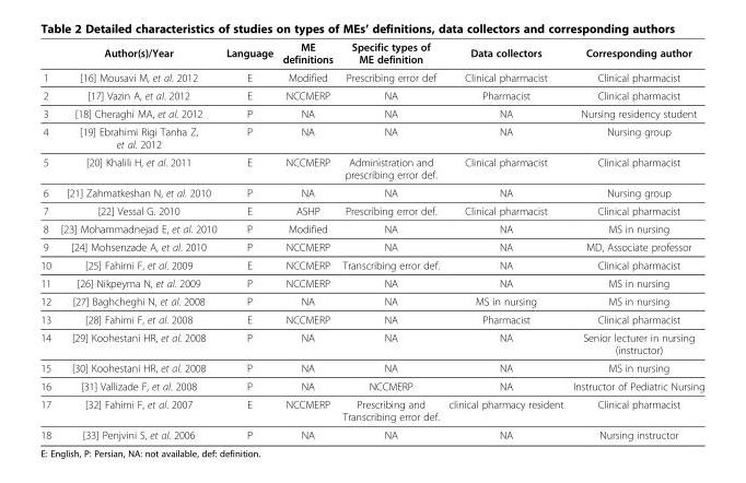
<table><thead><tr><td></td><td>Author(s)/Year</td><td>Language</td><td>ME definitions</td><td>Specific types of ME definition</td><td>Data collectors</td><td>Corresponding author</td></tr></thead><tbody><tr><td>1</td><td>[16] Mousavi M, et al. 2012</td><td>E</td><td>Modified</td><td>Prescribing error def</td><td>Clinical pharmacist</td><td>Clinical pharmacist</td></tr><tr><td>2</td><td>[17] Vazin A, et al. 2012</td><td>E</td><td>NCCMERP</td><td>NA</td><td>Pharmacist</td><td>Clinical pharmacist</td></tr><tr><td>3</td><td>[18] Cheraghi MA, et al. 2012</td><td>P</td><td>NA</td><td>NA</td><td>NA</td><td>Nursing residency student</td></tr><tr><td>4</td><td>[19] Ebrahimi Rigi Tanha Z, et al. 2012</td><td>P</td><td>NA</td><td>NA</td><td>NA</td><td>Nursing group</td></tr><tr><td>5</td><td>[20] Khalili H, et al. 2011</td><td>E</td><td>NCCMERP</td><td>Administration and prescribing error def.</td><td>Clinical pharmacist</td><td>Clinical pharmacist</td></tr><tr><td>6</td><td>[21] Zahmatkeshan N, et al. 2010</td><td>P</td><td>NA</td><td>NA</td><td>NA</td><td>Nursing group</td></tr><tr><td>7</td><td>[22] Vessal G. 2010</td><td>E</td><td>ASHP</td><td>Prescribing error def.</td><td>Clinical pharmacist</td><td>Clinical pharmacist</td></tr><tr><td>8</td><td>[23] Mohammadnejad E, et al. 2010</td><td>P</td><td>Modified</td><td>NA</td><td>NA</td><td>MS in nursing</td></tr><tr><td>9</td><td>[24] Mohsenzade A, et al. 2010</td><td>P</td><td>NCCMERP</td><td>NA</td><td>NA</td><td>MD, Associate professor</td></tr><tr><td>10</td><td>[25] Fahimi F, et al. 2009</td><td>E</td><td>NCCMERP</td><td>Transcribing error def.</td><td>NA</td><td>Clinical pharmacist</td></tr><tr><td>11</td><td>[26] Nikpeyma N, et al. 2009</td><td>P</td><td>NCCMERP</td><td>NA</td><td>NA</td><td>MS in nursing</td></tr><tr><td>12</td><td>[27] Baghcheghi N, et al. 2008</td><td>P</td><td>NA</td><td>NA</td><td>MS in nursing</td><td>MS in nursing</td></tr><tr><td>13</td><td>[28] Fahimi F, et al. 2008</td><td>E</td><td>NCCMERP</td><td>NA</td><td>Pharmacist</td><td>Clinical pharmacist</td></tr><tr><td>14</td><td>[29] Koohestani HR, et al. 2008</td><td>P</td><td>NA</td><td>NA</td><td>NA</td><td>Senior lecturer in nursing (instructor)</td></tr><tr><td>15</td><td>[30] Koohestani HR, et al. 2008</td><td>P</td><td>NA</td><td>NA</td><td>NA</td><td>MS in nursing</td></tr><tr><td>16</td><td>[31] Vallizade F, et al. 2008</td><td>P</td><td>NA</td><td>NCCMERP</td><td>NA</td><td>Instructor of Pediatric Nursing</td></tr><tr><td>17</td><td>[32] Fahimi F, et al. 2007</td><td>E</td><td>NCCMERP</td><td>Prescribing and Transcribing error def.</td><td>clinical pharmacy resident</td><td>Clinical pharmacist</td></tr><tr><td>18</td><td>[33] Penjvini S, et al. 2006</td><td>P</td><td>NA</td><td>NA</td><td>NA</td><td>Nursing instructor</td></tr></tbody></table>